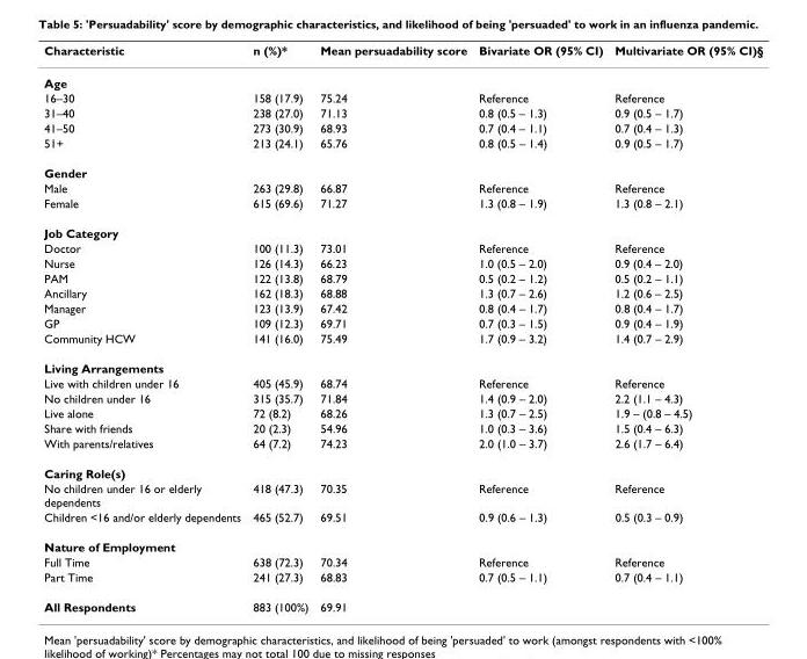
<table><thead><tr><td>Characteristic</td><td>n (%)*</td><td>Mean persuadability score</td><td>Bivariate OR (95% CI)</td><td>Multivariate OR (95% CI)§</td></tr></thead><tbody><tr><td colspan="5">Age</td></tr><tr><td>16–30</td><td>158 (17.9)</td><td>75.24</td><td>Reference</td><td>Reference</td></tr><tr><td>31–40</td><td>238 (27.0)</td><td>71.13</td><td>0.8 (0.5 – 1.3)</td><td>0.9 (0.5 – 1.7)</td></tr><tr><td>41–50</td><td>273 (30.9)</td><td>68.93</td><td>0.7 (0.4 – 1.1)</td><td>0.7 (0.4 – 1.3)</td></tr><tr><td>51+</td><td>213 (24.1)</td><td>65.76</td><td>0.8 (0.5 – 1.4)</td><td>0.9 (0.5 – 1.7)</td></tr><tr><td colspan="5">Gender</td></tr><tr><td>Male</td><td>263 (29.8)</td><td>66.87</td><td>Reference</td><td>Reference</td></tr><tr><td>Female</td><td>615 (69.6)</td><td>71.27</td><td>1.3 (0.8 – 1.9)</td><td>1.3 (0.8 – 2.1)</td></tr><tr><td colspan="5">Job Category</td></tr><tr><td>Doctor</td><td>100 (11.3)</td><td>73.01</td><td>Reference</td><td>Reference</td></tr><tr><td>Nurse</td><td>126 (14.3)</td><td>66.23</td><td>1.0 (0.5 – 2.0)</td><td>0.9 (0.4 – 2.0)</td></tr><tr><td>PAM</td><td>122 (13.8)</td><td>68.79</td><td>0.5 (0.2 – 1.2)</td><td>0.5 (0.2 – 1.1)</td></tr><tr><td>Ancillary</td><td>162 (18.3)</td><td>68.88</td><td>1.3 (0.7 – 2.6)</td><td>1.2 (0.6 – 2.5)</td></tr><tr><td>Manager</td><td>123 (13.9)</td><td>67.42</td><td>0.8 (0.4 – 1.7)</td><td>0.8 (0.4 – 1.7)</td></tr><tr><td>GP</td><td>109 (12.3)</td><td>69.71</td><td>0.7 (0.3 – 1.5)</td><td>0.9 (0.4 – 1.9)</td></tr><tr><td>Community HCW</td><td>141 (16.0)</td><td>75.49</td><td>1.7 (0.9 – 3.2)</td><td>1.4 (0.7 – 2.9)</td></tr><tr><td colspan="5">Living Arrangements</td></tr><tr><td>Live with children under 16</td><td>405 (45.9)</td><td>68.74</td><td>Reference</td><td>Reference</td></tr><tr><td>No children under 16</td><td>315 (35.7)</td><td>71.84</td><td>1.4 (0.9 – 2.0)</td><td>2.2 (1.1 – 4.3)</td></tr><tr><td>Live alone</td><td>72 (8.2)</td><td>68.26</td><td>1.3 (0.7 – 2.5)</td><td>1.9 – (0.8 – 4.5)</td></tr><tr><td>Share with friends</td><td>20 (2.3)</td><td>54.96</td><td>1.0 (0.3 – 3.6)</td><td>1.5 (0.4 – 6.3)</td></tr><tr><td>With parents/relatives</td><td>64 (7.2)</td><td>74.23</td><td>2.0 (1.0 – 3.7)</td><td>2.6 (1.7 – 6.4)</td></tr><tr><td colspan="5">Caring Role(s)</td></tr><tr><td>No children under 16 or elderly dependents</td><td>418 (47.3)</td><td>70.35</td><td>Reference</td><td>Reference</td></tr><tr><td>Children &lt;16 and/or elderly dependents</td><td>465 (52.7)</td><td>69.51</td><td>0.9 (0.6 – 1.3)</td><td>0.5 (0.3 – 0.9)</td></tr><tr><td colspan="5">Nature of Employment</td></tr><tr><td>Full Time</td><td>638 (72.3)</td><td>70.34</td><td>Reference</td><td>Reference</td></tr><tr><td>Part Time</td><td>241 (27.3)</td><td>68.83</td><td>0.7 (0.5 – 1.1)</td><td>0.7 (0.4 – 1.1)</td></tr><tr><td>All Respondents</td><td>883 (100%)</td><td>69.91</td><td></td><td></td></tr></tbody></table>